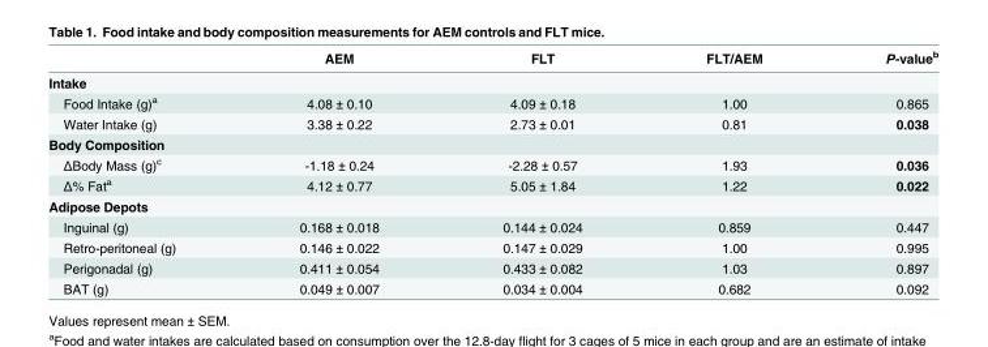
<table><thead><tr><td></td><td>AEM</td><td>FLT</td><td>FLT/AEM</td><td>P-value<sup>b</sup></td></tr></thead><tbody><tr><td colspan="5">Intake</td></tr><tr><td>Food Intake (g)<sup>a</sup></td><td>4.08 ± 0.10</td><td>4.09 ± 0.18</td><td>1.00</td><td>0.865</td></tr><tr><td>Water Intake (g)</td><td>3.38 ± 0.22</td><td>2.73 ± 0.01</td><td>0.81</td><td>0.038</td></tr><tr><td colspan="5">Body Composition</td></tr><tr><td>ΔBody Mass (g)<sup>c</sup></td><td>-1.18 ± 0.24</td><td>-2.28 ± 0.57</td><td>1.93</td><td>0.036</td></tr><tr><td>Δ% Fat<sup>a</sup></td><td>4.12 ± 0.77</td><td>5.05 ± 1.84</td><td>1.22</td><td>0.022</td></tr><tr><td colspan="5">Adipose Depots</td></tr><tr><td>Inguinal (g)</td><td>0.168 ± 0.018</td><td>0.144 ± 0.024</td><td>0.859</td><td>0.447</td></tr><tr><td>Retro-peritoneal (g)</td><td>0.146 ± 0.022</td><td>0.147 ± 0.029</td><td>1.00</td><td>0.995</td></tr><tr><td>Perigonadal (g)</td><td>0.411 ± 0.054</td><td>0.433 ± 0.082</td><td>1.03</td><td>0.897</td></tr><tr><td>BAT (g)</td><td>0.049 ± 0.007</td><td>0.034 ± 0.004</td><td>0.682</td><td>0.092</td></tr></tbody></table>